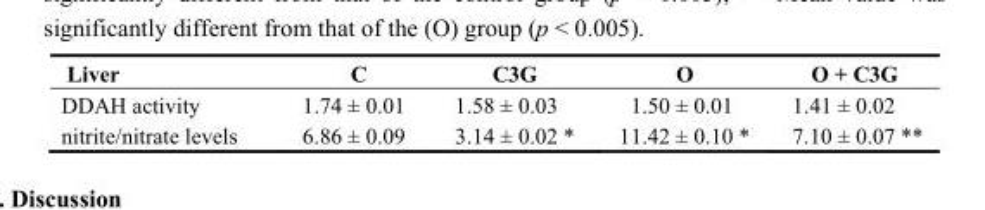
<table><thead><tr><td>Liver</td><td>C</td><td>C3G</td><td>O</td><td>O + C3G</td></tr></thead><tbody><tr><td>DDAH activity</td><td>1.74 ± 0.01</td><td>1.58 ± 0.03</td><td>1.50 ± 0.01</td><td>1.41 ± 0.02</td></tr><tr><td>nitrite/nitrate levels</td><td>6.86 ± 0.09</td><td>3.14 ± 0.02 *</td><td>11.42 ± 0.10 *</td><td>7.10 ± 0.07 **</td></tr></tbody></table>